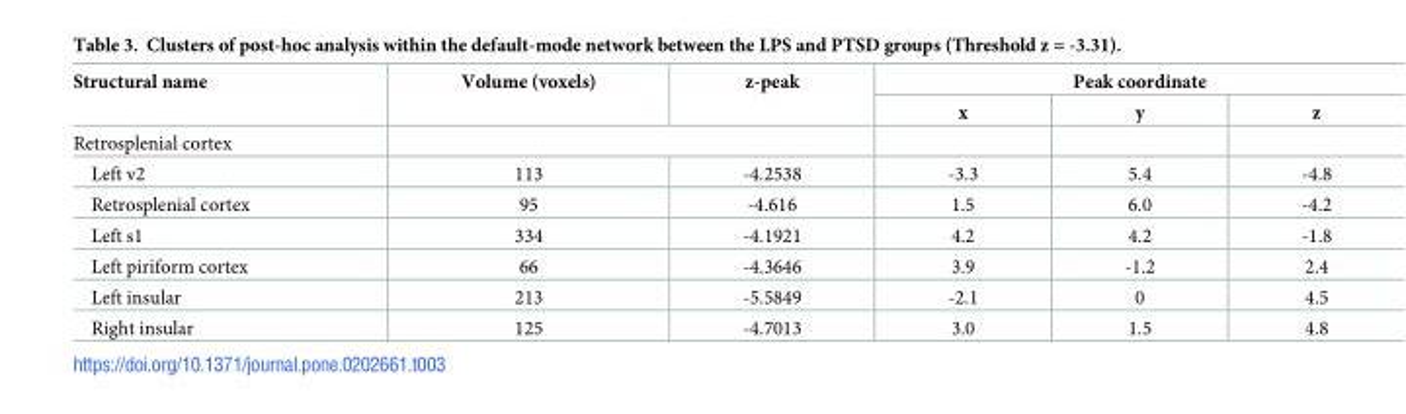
<table><thead><tr><td rowspan="2">Structural name</td><td rowspan="2">Volume (voxels)</td><td rowspan="2">z-peak</td><td colspan="3">Peak coordinate</td></tr><tr><td>x</td><td>y</td><td>z</td></tr></thead><tbody><tr><td colspan="6">Retrosplenial cortex</td></tr><tr><td>Left v2</td><td>113</td><td>-4.2538</td><td>-3.3</td><td>5.4</td><td>-4.8</td></tr><tr><td>Retrosplenial cortex</td><td>95</td><td>-4.616</td><td>1.5</td><td>6.0</td><td>-4.2</td></tr><tr><td>Left s1</td><td>334</td><td>-4.1921</td><td>4.2</td><td>4.2</td><td>-1.8</td></tr><tr><td>Left piriform cortex</td><td>66</td><td>-4.3646</td><td>3.9</td><td>-1.2</td><td>2.4</td></tr><tr><td>Left insular</td><td>213</td><td>-5.5849</td><td>-2.1</td><td>0</td><td>4.5</td></tr><tr><td>Right insular</td><td>125</td><td>-4.7013</td><td>3.0</td><td>1.5</td><td>4.8</td></tr></tbody></table>